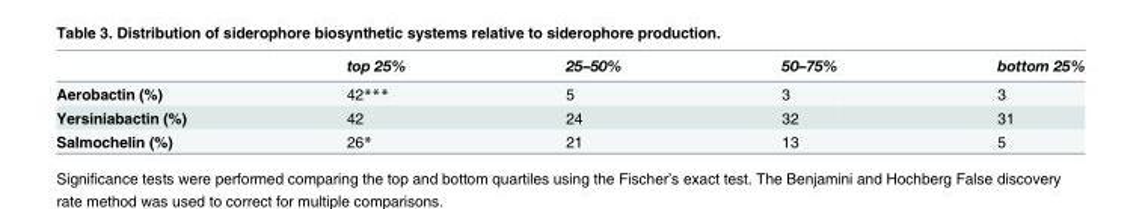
<table><thead><tr><td></td><td>top 25%</td><td>25–50%</td><td>50–75%</td><td>bottom 25%</td></tr></thead><tbody><tr><td>Aerobactin (%)</td><td>42***</td><td>5</td><td>3</td><td>3</td></tr><tr><td>Yersiniabactin (%)</td><td>42</td><td>24</td><td>32</td><td>31</td></tr><tr><td>Salmochelin (%)</td><td>26*</td><td>21</td><td>13</td><td>5</td></tr></tbody></table>